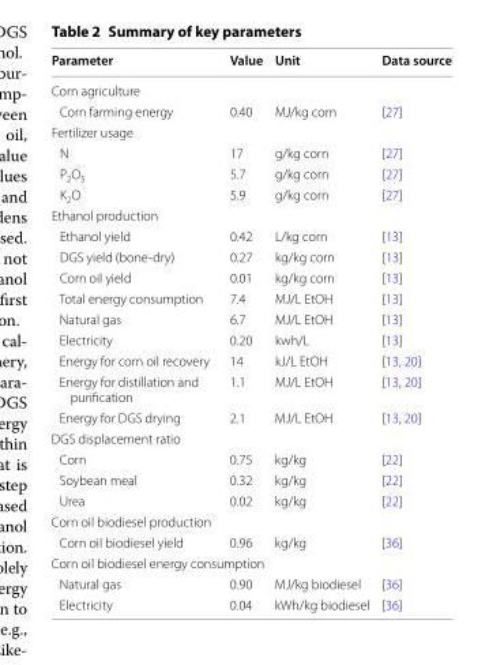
<table><thead><tr><td>Parameter</td><td>Value</td><td>Unit</td><td>Data source</td></tr></thead><tbody><tr><td colspan="4">Corn agriculture</td></tr><tr><td>Corn farming energy</td><td>0.40</td><td>MJ/kg corn</td><td>[27]</td></tr><tr><td colspan="4">Fertilizer usage</td></tr><tr><td>N</td><td>17</td><td>g/kg corn</td><td>[27]</td></tr><tr><td>P<sub>2</sub>O<sub>5</sub></td><td>5.7</td><td>g/kg corn</td><td>[27]</td></tr><tr><td>K<sub>2</sub>O</td><td>5.9</td><td>g/kg corn</td><td>[27]</td></tr><tr><td colspan="4">Ethanol production</td></tr><tr><td>Ethanol yield</td><td>0.42</td><td>L/kg corn</td><td>[13]</td></tr><tr><td>DGS yield (bone-dry)</td><td>0.27</td><td>kg/kg corn</td><td>[13]</td></tr><tr><td>Corn oil yield</td><td>0.01</td><td>kg/kg corn</td><td>[13]</td></tr><tr><td>Total energy consumption</td><td>7.4</td><td>MJ/L EtOH</td><td>[13]</td></tr><tr><td>Natural gas</td><td>6.7</td><td>MJ/L EtOH</td><td>[13]</td></tr><tr><td>Electricity</td><td>0.20</td><td>kwh/L</td><td>[13]</td></tr><tr><td>Energy for corn oil recovery</td><td>14</td><td>kJ/L EtOH</td><td>[13, 20]</td></tr><tr><td>Energy for distillation and purification</td><td>1.1</td><td>MJ/L EtOH</td><td>[13, 20]</td></tr><tr><td>Energy for DGS drying</td><td>2.1</td><td>MJ/L EtOH</td><td>[13, 20]</td></tr><tr><td colspan="4">DGS displacement ratio</td></tr><tr><td>Corn</td><td>0.75</td><td>kg/kg</td><td>[22]</td></tr><tr><td>Soybean meal</td><td>0.32</td><td>kg/kg</td><td>[22]</td></tr><tr><td>Urea</td><td>0.02</td><td>kg/kg</td><td>[22]</td></tr><tr><td colspan="4">Corn oil biodiesel production</td></tr><tr><td>Corn oil biodiesel yield</td><td>0.96</td><td>kg/kg</td><td>[36]</td></tr><tr><td colspan="4">Corn oil biodiesel energy consumption</td></tr><tr><td>Natural gas</td><td>0.90</td><td>MJ/kg biodiesel</td><td>[36]</td></tr><tr><td>Electricity</td><td>0.04</td><td>kWh/kg biodiesel</td><td>[36]</td></tr></tbody></table>